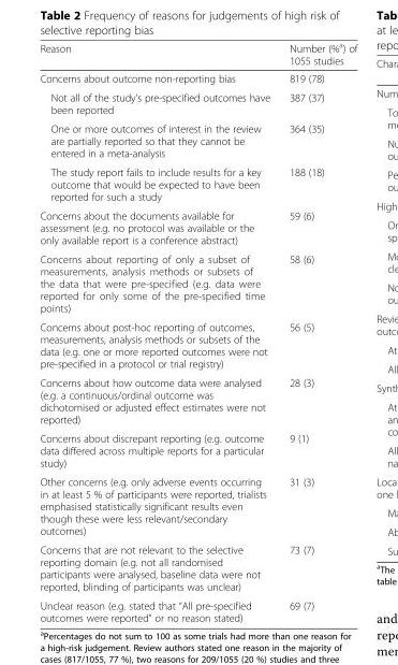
<table><thead><tr><td>Reason</td><td>Number (%<sup>a</sup>) of 1055 studies</td></tr></thead><tbody><tr><td>Concerns about outcome non-reporting bias</td><td>819 (78)</td></tr><tr><td>Not all of the study’s pre-specified outcomes have been reported</td><td>387 (37)</td></tr><tr><td>One or more outcomes of interest in the review are partially reported so that they cannot be entered in a meta-analysis</td><td>364 (35)</td></tr><tr><td>The study report fails to include results for a key outcome that would be expected to have been reported for such a study</td><td>188 (18)</td></tr><tr><td>Concerns about the documents available for assessment (e.g. no protocol was available or the only available report is a conference abstract)</td><td>59 (6)</td></tr><tr><td>Concerns about reporting of only a subset of measurements, analysis methods or subsets of the data that were pre-specified (e.g. data were reported for only some of the pre-specified time points)</td><td>58 (6)</td></tr><tr><td>Concerns about post-hoc reporting of outcomes, measurements, analysis methods or subsets of the data (e.g. one or more reported outcomes were not pre-specified in a protocol or trial registry)</td><td>56 (5)</td></tr><tr><td>Concerns about how outcome data were analysed (e.g. a continuous/ordinal outcome was dichotomised or adjusted effect estimates were not reported)</td><td>28 (3)</td></tr><tr><td>Concerns about discrepant reporting (e.g. outcome data differed across multiple reports for a particular study)</td><td>9 (1)</td></tr><tr><td>Other concerns (e.g. only adverse events occurring in at least 5 % of participants were reported, trialists emphasised statistically significant results even though these were less relevant/secondary outcomes)</td><td>31 (3)</td></tr><tr><td>Concerns that are not relevant to the selective reporting domain (e.g. not all randomised participants were analysed, baseline data were not reported, blinding of participants was unclear)</td><td>73 (7)</td></tr><tr><td>Unclear reason (e.g. stated that “All pre-specified outcomes were reported” or no reason stated)</td><td>69 (7)</td></tr></tbody></table>